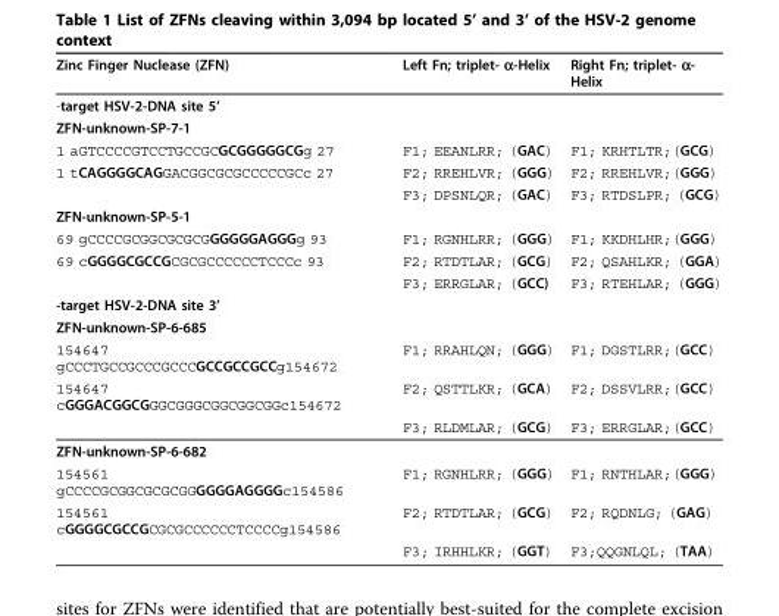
<table><thead><tr><td>Zinc Finger Nuclease (ZFN)</td><td>Left Fn; triplet- α-Helix</td><td>Right Fn; triplet- α- Helix</td></tr></thead><tbody><tr><td colspan="3">-target HSV-2-DNA site 5’</td></tr><tr><td colspan="3">ZFN-unknown-SP-7-1</td></tr><tr><td>1 aGTCCCCGTCCTGCCGCGCGGGGGCGg 27</td><td>F1; EEANLRR; (GAC)</td><td>F1; KRHTLTR;(GCG)</td></tr><tr><td rowspan="2">1 tCAGGGGCAGGACGGCGCGCCCCCGCc 27</td><td>F2; RREHLVR; (GGG)</td><td>F2; RREHLVR;(GGG)</td></tr><tr><td>F3; DPSNLQR; (GAC)</td><td>F3; RTDSLPR; (GCG)</td></tr><tr><td colspan="3">ZFN-unknown-SP-5-1</td></tr><tr><td>69 gCCCCGCGGCGCGCGGGGGGAGGGg 93</td><td>F1; RGNHLRR; (GGG)</td><td>F1; KKDHLHR;(GGG)</td></tr><tr><td rowspan="2">69 cGGGGCGCCGCGCGCCCCCCTCCCc 93</td><td>F2; RTDTLAR; (GCG)</td><td>F2; QSAHLKR; (GGA)</td></tr><tr><td>F3; ERRGLAR; (GCC)</td><td>F3; RTEHLAR; (GGG)</td></tr><tr><td colspan="3">-target HSV-2-DNA site 3’</td></tr><tr><td colspan="3">ZFN-unknown-SP-6-685</td></tr><tr><td>154647 gCCCTGCCGCCCGCCCGCCGCCGCCg154672</td><td>F1; RRAHLQN; (GGG)</td><td>F1; DGSTLRR;(GCC)</td></tr><tr><td rowspan="2">154647 cGGGACGGCGGGCGGGCGGCGGCGGc154672</td><td>F2; QSTTLKR; (GCA)</td><td>F2; DSSVLRR;(GCC)</td></tr><tr><td>F3; RLDMLAR; (GCG)</td><td>F3; ERRGLAR;(GCC)</td></tr><tr><td colspan="3">ZFN-unknown-SP-6-682</td></tr><tr><td>154561 gCCCCGCGGCGCGCGGGGGGAGGGGc154586</td><td>F1; RGNHLRR; (GGG)</td><td>F1; RNTHLAR;(GGG)</td></tr><tr><td rowspan="2">154561 cGGGGCGCCGCGCGCCCCCCTCCCCg154586</td><td>F2; RTDTLAR; (GCG)</td><td>F2; RQDNLG; (GAG)</td></tr><tr><td>F3; IRHHLKR; (GGT)</td><td>F3;QQGNLQL; (TAA)</td></tr></tbody></table>